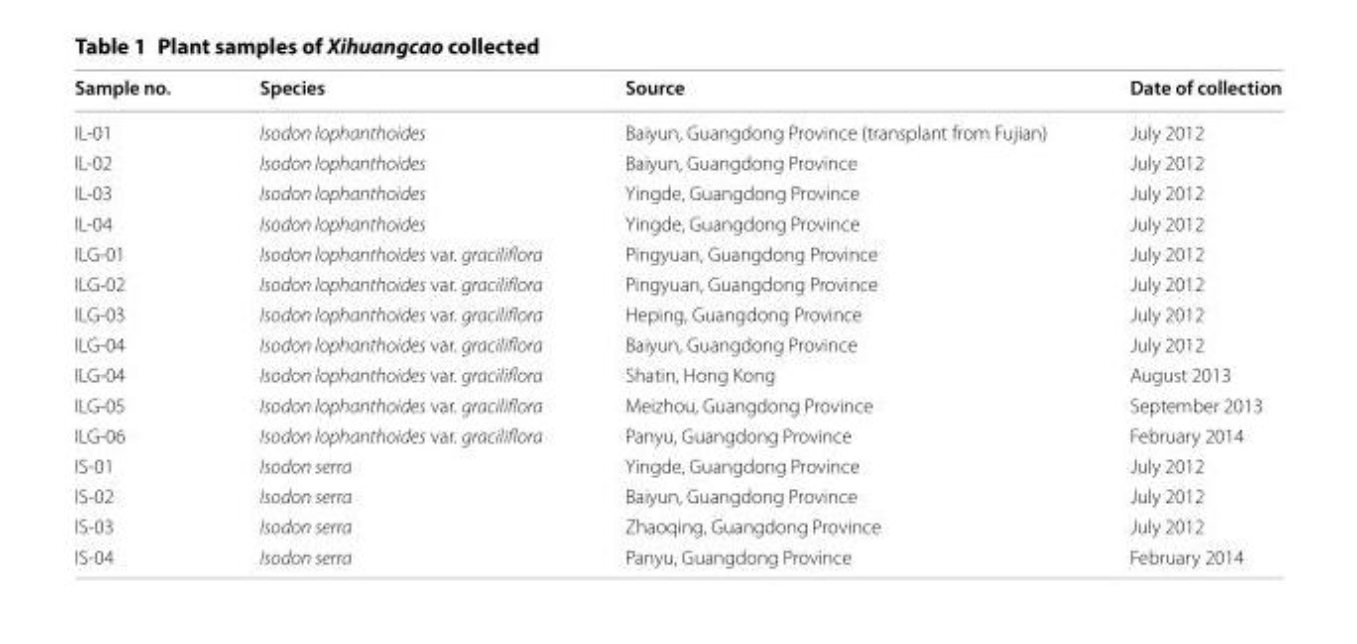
<table><thead><tr><td>Sample no.</td><td>Species</td><td>Source</td><td>Date of collection</td></tr></thead><tbody><tr><td>IL-01</td><td>Isodon lophanthoides</td><td>Baiyun, Guangdong Province (transplant from Fujian)</td><td>July 2012</td></tr><tr><td>IL-02</td><td>Isodon lophanthoides</td><td>Baiyun, Guangdong Province</td><td>July 2012</td></tr><tr><td>IL-03</td><td>Isodon lophanthoides</td><td>Yingde, Guangdong Province</td><td>July 2012</td></tr><tr><td>IL-04</td><td>Isodon lophanthoides</td><td>Yingde, Guangdong Province</td><td>July 2012</td></tr><tr><td>ILG-01</td><td>Isodon lophanthoides var. graciliflora</td><td>Pingyuan, Guangdong Province</td><td>July 2012</td></tr><tr><td>ILG-02</td><td>Isodon lophanthoides var. graciliflora</td><td>Pingyuan, Guangdong Province</td><td>July 2012</td></tr><tr><td>ILG-03</td><td>Isodon lophanthoides var. graciliflora</td><td>Heping, Guangdong Province</td><td>July 2012</td></tr><tr><td>ILG-04</td><td>Isodon lophanthoides var. graciliflora</td><td>Baiyun, Guangdong Province</td><td>July 2012</td></tr><tr><td>ILG-04</td><td>Isodon lophanthoides var. graciliflora</td><td>Shatin, Hong Kong</td><td>August 2013</td></tr><tr><td>ILG-05</td><td>Isodon lophanthoides var. graciliflora</td><td>Meizhou, Guangdong Province</td><td>September 2013</td></tr><tr><td>ILG-06</td><td>Isodon lophanthoides var. graciliflora</td><td>Panyu, Guangdong Province</td><td>February 2014</td></tr><tr><td>IS-01</td><td>Isodon serra</td><td>Yingde, Guangdong Province</td><td>July 2012</td></tr><tr><td>IS-02</td><td>Isodon serra</td><td>Baiyun, Guangdong Province</td><td>July 2012</td></tr><tr><td>IS-03</td><td>Isodon serra</td><td>Zhaoqing, Guangdong Province</td><td>July 2012</td></tr><tr><td>IS-04</td><td>Isodon serra</td><td>Panyu, Guangdong Province</td><td>February 2014</td></tr></tbody></table>